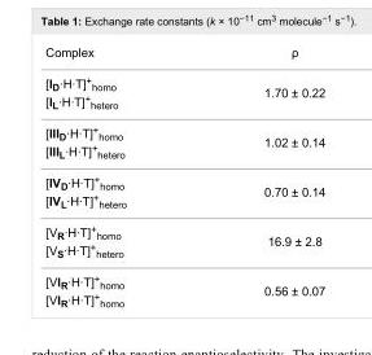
<table><tbody><tr><td>Complex</td><td>ρ</td></tr><tr><td>[I<sub>D</sub>∙H∙T]<sup>+</sup><sub>homo</sub></td><td rowspan="2">1.70 ± 0.22</td></tr><tr><td>[I<sub>L</sub>∙H∙T]<sup>+</sup><sub>hetero</sub></td></tr><tr><td>[III<sub>D</sub>∙H∙T]<sup>+</sup><sub>homo</sub></td><td rowspan="2">1.02 ± 0.14</td></tr><tr><td>[III<sub>L</sub>∙H∙T]<sup>+</sup><sub>hetero</sub></td></tr><tr><td>[IV<sub>D</sub>∙H∙T]<sup>+</sup><sub>homo</sub></td><td rowspan="2">0.70 ± 0.14</td></tr><tr><td>[IV<sub>L</sub>∙H∙T]<sup>+</sup><sub>hetero</sub></td></tr><tr><td>[V<sub>R</sub>∙H∙T]<sup>+</sup><sub>homo</sub></td><td rowspan="2">16.9 ± 2.8</td></tr><tr><td>[V<sub>S</sub>∙H∙T]<sup>+</sup><sub>hetero</sub></td></tr><tr><td>[VI<sub>R</sub>∙H∙T]<sup>+</sup><sub>homo</sub></td><td rowspan="2">0.56 ± 0.07</td></tr><tr><td>[VI<sub>R</sub>∙H∙T]<sup>+</sup><sub>homo</sub></td></tr></tbody></table>